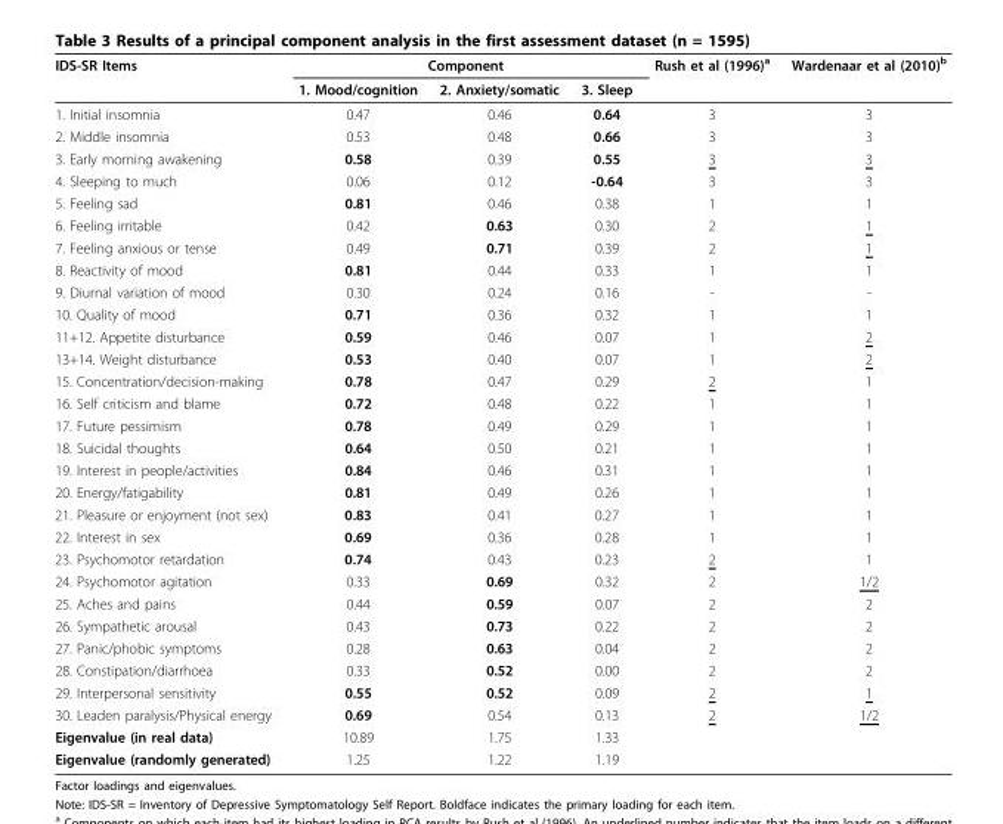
<table><thead><tr><td rowspan="2">IDS-SR Items</td><td colspan="3">Component</td><td rowspan="2">Rush et al (1996)<sup>a</sup></td><td rowspan="2">Wardenaar et al (2010)<sup>b</sup></td></tr><tr><td>1. Mood/cognition</td><td>2. Anxiety/somatic</td><td>3. Sleep</td></tr></thead><tbody><tr><td>1. Initial insomnia</td><td>0.47</td><td>0.46</td><td>0.64</td><td>3</td><td>3</td></tr><tr><td>2. Middle insomnia</td><td>0.53</td><td>0.48</td><td>0.66</td><td>3</td><td>3</td></tr><tr><td>3. Early morning awakening</td><td>0.58</td><td>0.39</td><td>0.55</td><td>3</td><td>3</td></tr><tr><td>4. Sleeping to much</td><td>0.06</td><td>0.12</td><td>-0.64</td><td>3</td><td>3</td></tr><tr><td>5. Feeling sad</td><td>0.81</td><td>0.46</td><td>0.38</td><td>1</td><td>1</td></tr><tr><td>6. Feeling irritable</td><td>0.42</td><td>0.63</td><td>0.30</td><td>2</td><td>1</td></tr><tr><td>7. Feeling anxious or tense</td><td>0.49</td><td>0.71</td><td>0.39</td><td>2</td><td>1</td></tr><tr><td>8. Reactivity of mood</td><td>0.81</td><td>0.44</td><td>0.33</td><td>1</td><td>1</td></tr><tr><td>9. Diurnal variation of mood</td><td>0.30</td><td>0.24</td><td>0.16</td><td>-</td><td>-</td></tr><tr><td>10. Quality of mood</td><td>0.71</td><td>0.36</td><td>0.32</td><td>1</td><td>1</td></tr><tr><td>11+12. Appetite disturbance</td><td>0.59</td><td>0.46</td><td>0.07</td><td>1</td><td>2</td></tr><tr><td>13+14. Weight disturbance</td><td>0.53</td><td>0.40</td><td>0.07</td><td>1</td><td>2</td></tr><tr><td>15. Concentration/decision-making</td><td>0.78</td><td>0.47</td><td>0.29</td><td>2</td><td>1</td></tr><tr><td>16. Self criticism and blame</td><td>0.72</td><td>0.48</td><td>0.22</td><td>1</td><td>1</td></tr><tr><td>17. Future pessimism</td><td>0.78</td><td>0.49</td><td>0.29</td><td>1</td><td>1</td></tr><tr><td>18. Suicidal thoughts</td><td>0.64</td><td>0.50</td><td>0.21</td><td>1</td><td>1</td></tr><tr><td>19. Interest in people/activities</td><td>0.84</td><td>0.46</td><td>0.31</td><td>1</td><td>1</td></tr><tr><td>20. Energy/fatigability</td><td>0.81</td><td>0.49</td><td>0.26</td><td>1</td><td>1</td></tr><tr><td>21. Pleasure or enjoyment (not sex)</td><td>0.83</td><td>0.41</td><td>0.27</td><td>1</td><td>1</td></tr><tr><td>22. Interest in sex</td><td>0.69</td><td>0.36</td><td>0.28</td><td>1</td><td>1</td></tr><tr><td>23. Psychomotor retardation</td><td>0.74</td><td>0.43</td><td>0.23</td><td>2</td><td>1</td></tr><tr><td>24. Psychomotor agitation</td><td>0.33</td><td>0.69</td><td>0.32</td><td>2</td><td>1/2</td></tr><tr><td>25. Aches and pains</td><td>0.44</td><td>0.59</td><td>0.07</td><td>2</td><td>2</td></tr><tr><td>26. Sympathetic arousal</td><td>0.43</td><td>0.73</td><td>0.22</td><td>2</td><td>2</td></tr><tr><td>27. Panic/phobic symptoms</td><td>0.28</td><td>0.63</td><td>0.04</td><td>2</td><td>2</td></tr><tr><td>28. Constipation/diarrhoea</td><td>0.33</td><td>0.52</td><td>0.00</td><td>2</td><td>2</td></tr><tr><td>29. Interpersonal sensitivity</td><td>0.55</td><td>0.52</td><td>0.09</td><td>2</td><td>1</td></tr><tr><td>30. Leaden paralysis/Physical energy</td><td>0.69</td><td>0.54</td><td>0.13</td><td>2</td><td>1/2</td></tr><tr><td>Eigenvalue (in real data)</td><td>10.89</td><td>1.75</td><td>1.33</td><td></td><td></td></tr><tr><td>Eigenvalue (randomly generated)</td><td>1.25</td><td>1.22</td><td>1.19</td><td></td><td></td></tr></tbody></table>